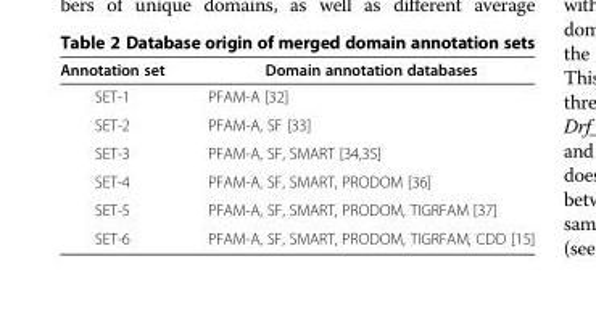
<table><thead><tr><td>Annotation set</td><td>Domain annotation databases</td></tr></thead><tbody><tr><td>SET-1</td><td>PFAM-A [32]</td></tr><tr><td>SET-2</td><td>PFAM-A, SF [33]</td></tr><tr><td>SET-3</td><td>PFAM-A, SF, SMART [34,35]</td></tr><tr><td>SET-4</td><td>PFAM-A, SF, SMART, PRODOM [36]</td></tr><tr><td>SET-5</td><td>PFAM-A, SF, SMART, PRODOM, TIGRFAM [37]</td></tr><tr><td>SET-6</td><td>PFAM-A, SF, SMART, PRODOM, TIGRFAM, CDD [15]</td></tr></tbody></table>